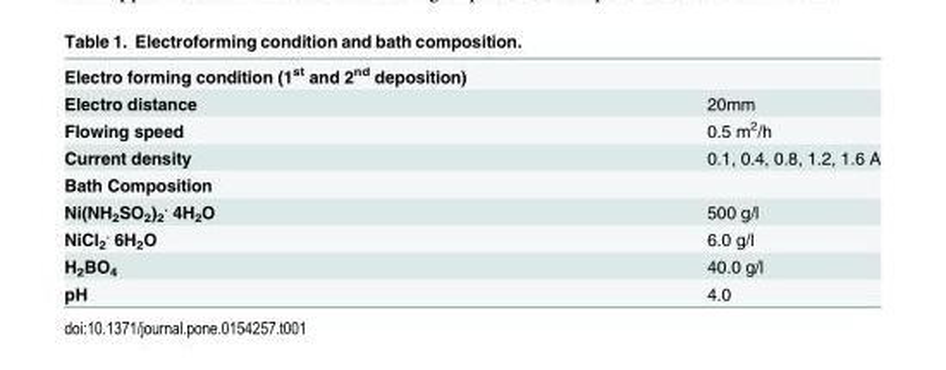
<table><tbody><tr><td colspan="2">Electro forming condition (1<sup>st</sup> and 2<sup>nd</sup> deposition)</td></tr><tr><td>Electro distance</td><td>20mm</td></tr><tr><td>Flowing speed</td><td>0.5 m<sup>2</sup>/h</td></tr><tr><td>Current density</td><td>0.1, 0.4, 0.8, 1.2, 1.6 A</td></tr><tr><td colspan="2">Bath Composition</td></tr><tr><td>Ni(NH<sub>2</sub>SO<sub>2</sub>)<sub>2</sub> <sup>.</sup> 4H<sub>2</sub>O</td><td>500 g/l</td></tr><tr><td>NiCl<sub>2</sub> <sup>.</sup> 6H<sub>2</sub>O</td><td>6.0 g/l</td></tr><tr><td>H<sub>2</sub>BO<sub>4</sub></td><td>40.0 g/l</td></tr><tr><td>pH</td><td>4.0</td></tr></tbody></table>